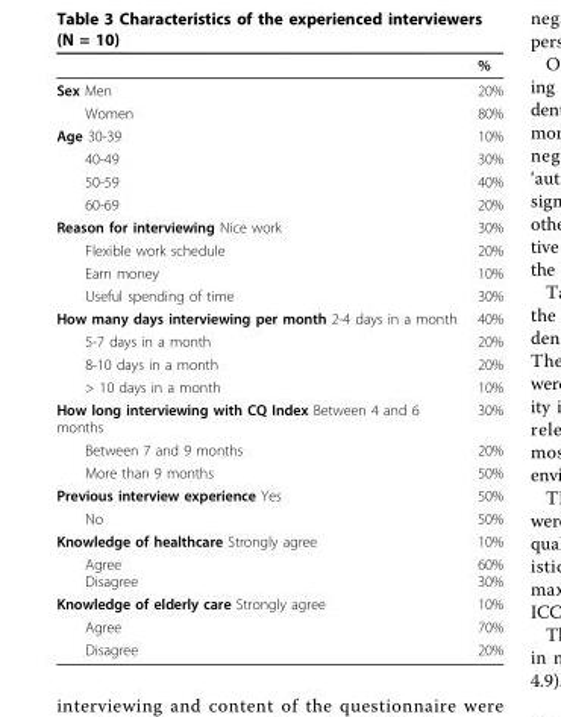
<table><thead><tr><td></td><td>%</td></tr></thead><tbody><tr><td>Sex Men</td><td>20%</td></tr><tr><td>Women</td><td>80%</td></tr><tr><td>Age 30-39</td><td>10%</td></tr><tr><td>40-49</td><td>30%</td></tr><tr><td>50-59</td><td>40%</td></tr><tr><td>60-69</td><td>20%</td></tr><tr><td>Reason for interviewing Nice work</td><td>30%</td></tr><tr><td>Flexible work schedule</td><td>20%</td></tr><tr><td>Earn money</td><td>10%</td></tr><tr><td>Useful spending of time</td><td>30%</td></tr><tr><td>How many days interviewing per month 2-4 days in a month</td><td>40%</td></tr><tr><td>5-7 days in a month</td><td>20%</td></tr><tr><td>8-10 days in a month</td><td>20%</td></tr><tr><td>&gt; 10 days in a month</td><td>10%</td></tr><tr><td>How long interviewing with CQ Index Between 4 and 6 months</td><td>30%</td></tr><tr><td>Between 7 and 9 months</td><td>20%</td></tr><tr><td>More than 9 months</td><td>50%</td></tr><tr><td>Previous interview experience Yes</td><td>50%</td></tr><tr><td>No</td><td>50%</td></tr><tr><td>Knowledge of healthcare Strongly agree</td><td>10%</td></tr><tr><td>Agree Disagree</td><td>60% 30%</td></tr><tr><td>Knowledge of elderly care Strongly agree</td><td>10%</td></tr><tr><td>Agree</td><td>70%</td></tr><tr><td>Disagree</td><td>20%</td></tr></tbody></table>